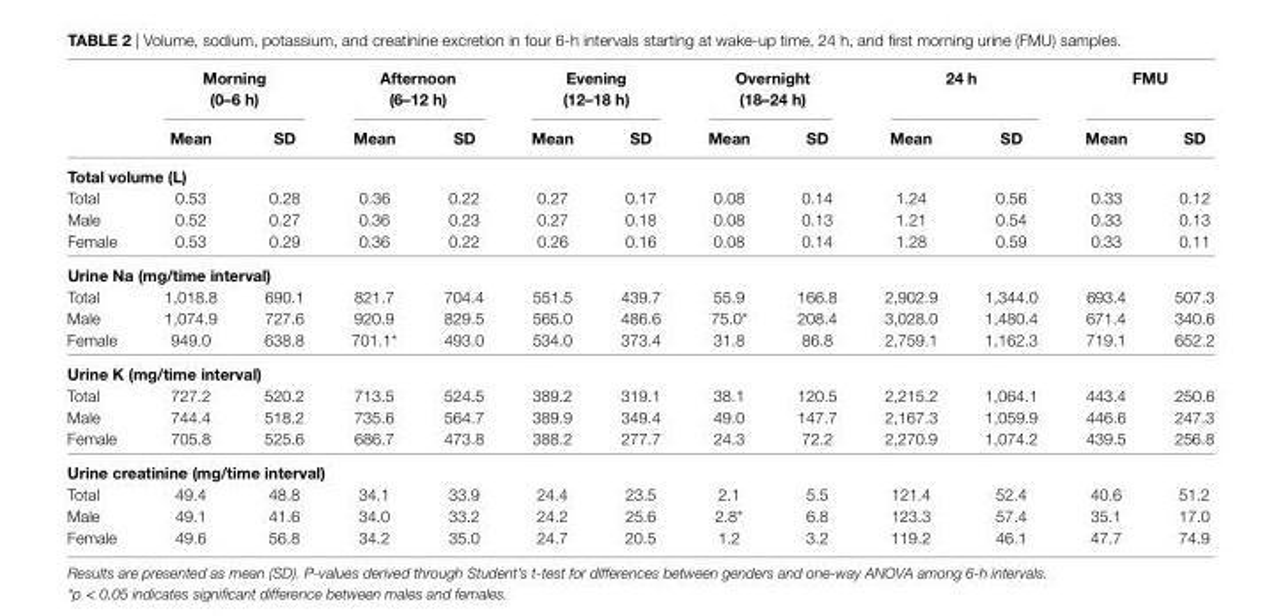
<table><thead><tr><td rowspan="2"></td><td colspan="2">Morning (0–6 h)</td><td colspan="2">afternoon (6–12 h)</td><td colspan="2">evening (12–18 h)</td><td colspan="2">Overnight (18–24 h)</td><td colspan="2">24 h</td><td colspan="2">FMU</td></tr><tr><td>Mean</td><td>sD</td><td>Mean</td><td>sD</td><td>Mean</td><td>sD</td><td>Mean</td><td>sD</td><td>Mean</td><td>sD</td><td>Mean</td><td>sD</td></tr></thead><tbody><tr><td colspan="13">Total volume (l)</td></tr><tr><td>Total</td><td>0.53</td><td>0.28</td><td>0.36</td><td>0.22</td><td>0.27</td><td>0.17</td><td>0.08</td><td>0.14</td><td>1.24</td><td>0.56</td><td>0.33</td><td>0.12</td></tr><tr><td>Male</td><td>0.52</td><td>0.27</td><td>0.36</td><td>0.23</td><td>0.27</td><td>0.18</td><td>0.08</td><td>0.13</td><td>1.21</td><td>0.54</td><td>0.33</td><td>0.13</td></tr><tr><td>Female</td><td>0.53</td><td>0.29</td><td>0.36</td><td>0.22</td><td>0.26</td><td>0.16</td><td>0.08</td><td>0.14</td><td>1.28</td><td>0.59</td><td>0.33</td><td>0.11</td></tr><tr><td colspan="13">Urine na (mg/time interval)</td></tr><tr><td>Total</td><td>1,018.8</td><td>690.1</td><td>821.7</td><td>704.4</td><td>551.5</td><td>439.7</td><td>55.9</td><td>166.8</td><td>2,902.9</td><td>1,344.0</td><td>693.4</td><td>507.3</td></tr><tr><td>Male</td><td>1,074.9</td><td>727.6</td><td>920.9</td><td>829.5</td><td>565.0</td><td>486.6</td><td>75.0*</td><td>208.4</td><td>3,028.0</td><td>1,480.4</td><td>671.4</td><td>340.6</td></tr><tr><td>Female</td><td>949.0</td><td>638.8</td><td>701.1*</td><td>493.0</td><td>534.0</td><td>373.4</td><td>31.8</td><td>86.8</td><td>2,759.1</td><td>1,162.3</td><td>719.1</td><td>652.2</td></tr><tr><td colspan="13">Urine K (mg/time interval)</td></tr><tr><td>Total</td><td>727.2</td><td>520.2</td><td>713.5</td><td>524.5</td><td>389.2</td><td>319.1</td><td>38.1</td><td>120.5</td><td>2,215.2</td><td>1,064.1</td><td>443.4</td><td>250.6</td></tr><tr><td>Male</td><td>744.4</td><td>518.2</td><td>735.6</td><td>564.7</td><td>389.9</td><td>349.4</td><td>49.0</td><td>147.7</td><td>2,167.3</td><td>1,059.9</td><td>446.6</td><td>247.3</td></tr><tr><td>Female</td><td>705.8</td><td>525.6</td><td>686.7</td><td>473.8</td><td>388.2</td><td>277.7</td><td>24.3</td><td>72.2</td><td>2,270.9</td><td>1,074.2</td><td>439.5</td><td>256.8</td></tr><tr><td colspan="13">Urine creatinine (mg/time interval)</td></tr><tr><td>Total</td><td>49.4</td><td>48.8</td><td>34.1</td><td>33.9</td><td>24.4</td><td>23.5</td><td>2.1</td><td>5.5</td><td>121.4</td><td>52.4</td><td>40.6</td><td>51.2</td></tr><tr><td>Male</td><td>49.1</td><td>41.6</td><td>34.0</td><td>33.2</td><td>24.2</td><td>25.6</td><td>2.8*</td><td>6.8</td><td>123.3</td><td>57.4</td><td>35.1</td><td>17.0</td></tr><tr><td>Female</td><td>49.6</td><td>56.8</td><td>34.2</td><td>35.0</td><td>24.7</td><td>20.5</td><td>1.2</td><td>3.2</td><td>119.2</td><td>46.1</td><td>47.7</td><td>74.9</td></tr></tbody></table>